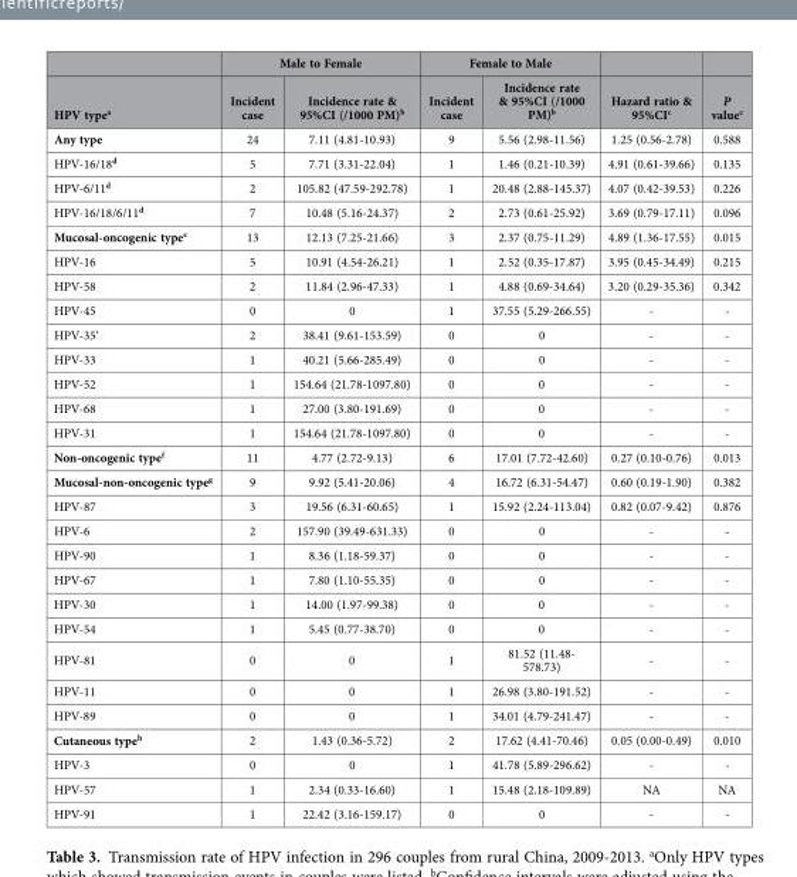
<table><thead><tr><td rowspan="2">HPV type<sup>a</sup></td><td colspan="2">Male to Female</td><td colspan="2">Female to Male</td><td rowspan="2">Hazard ratio &amp; 95%CI<sup>c</sup></td><td rowspan="2">P value<sup>c</sup></td></tr><tr><td>Incident case</td><td>Incidence rate &amp; 95%CI (/1000 PM)<sup>b</sup></td><td>Incident case</td><td>Incidence rate &amp; 95%CI (/1000 PM)<sup>b</sup></td></tr></thead><tbody><tr><td>Any type</td><td>24</td><td>7.11 (4.81-10.93)</td><td>9</td><td>5.56 (2.98-11.56)</td><td>1.25 (0.56-2.78)</td><td>0.588</td></tr><tr><td>HPV-16/18<sup>d</sup></td><td>5</td><td>7.71 (3.31-22.04)</td><td>1</td><td>1.46 (0.21-10.39)</td><td>4.91 (0.61-39.66)</td><td>0.135</td></tr><tr><td>HPV-6/11<sup>d</sup></td><td>2</td><td>105.82 (47.59-292.78)</td><td>1</td><td>20.48 (2.88-145.37)</td><td>4.07 (0.42-39.53)</td><td>0.226</td></tr><tr><td>HPV-16/18/6/11<sup>d</sup></td><td>7</td><td>10.48 (5.16-24.37)</td><td>2</td><td>2.73 (0.61-25.92)</td><td>3.69 (0.79-17.11)</td><td>0.096</td></tr><tr><td>Mucosal-oncogenic type<sup>e</sup></td><td>13</td><td>12.13 (7.25-21.66)</td><td>3</td><td>2.37 (0.75-11.29)</td><td>4.89 (1.36-17.55)</td><td>0.015</td></tr><tr><td>HPV-16</td><td>5</td><td>10.91 (4.54-26.21)</td><td>1</td><td>2.52 (0.35-17.87)</td><td>3.95 (0.45-34.49)</td><td>0.215</td></tr><tr><td>HPV-58</td><td>2</td><td>11.84 (2.96-47.33)</td><td>1</td><td>4.88 (0.69-34.64)</td><td>3.20 (0.29-35.36)</td><td>0.342</td></tr><tr><td>HPV-45</td><td>0</td><td>0</td><td>1</td><td>37.55 (5.29-266.55)</td><td>-</td><td>-</td></tr><tr><td>HPV-35‘</td><td>2</td><td>38.41 (9.61-153.59)</td><td>0</td><td>0</td><td>-</td><td>-</td></tr><tr><td>HPV-33</td><td>1</td><td>40.21 (5.66-285.49)</td><td>0</td><td>0</td><td>-</td><td>-</td></tr><tr><td>HPV-52</td><td>1</td><td>154.64 (21.78-1097.80)</td><td>0</td><td>0</td><td>-</td><td>-</td></tr><tr><td>HPV-68</td><td>1</td><td>27.00 (3.80-191.69)</td><td>0</td><td>0</td><td>-</td><td>-</td></tr><tr><td>HPV-31</td><td>1</td><td>154.64 (21.78-1097.80)</td><td>0</td><td>0</td><td>-</td><td>-</td></tr><tr><td>Non-oncogenic type<sup>f</sup></td><td>11</td><td>4.77 (2.72-9.13)</td><td>6</td><td>17.01 (7.72-42.60)</td><td>0.27 (0.10-0.76)</td><td>0.013</td></tr><tr><td>Mucosal-non-oncogenic type<sup>g</sup></td><td>9</td><td>9.92 (5.41-20.06)</td><td>4</td><td>16.72 (6.31-54.47)</td><td>0.60 (0.19-1.90)</td><td>0.382</td></tr><tr><td>HPV-87</td><td>3</td><td>19.56 (6.31-60.65)</td><td>1</td><td>15.92 (2.24-113.04)</td><td>0.82 (0.07-9.42)</td><td>0.876</td></tr><tr><td>HPV-6</td><td>2</td><td>157.90 (39.49-631.33)</td><td>0</td><td>0</td><td>-</td><td>-</td></tr><tr><td>HPV-90</td><td>1</td><td>8.36 (1.18-59.37)</td><td>0</td><td>0</td><td>-</td><td>-</td></tr><tr><td>HPV-67</td><td>1</td><td>7.80 (1.10-55.35)</td><td>0</td><td>0</td><td>-</td><td>-</td></tr><tr><td>HPV-30</td><td>1</td><td>14.00 (1.97-99.38)</td><td>0</td><td>0</td><td>-</td><td>-</td></tr><tr><td>HPV-54</td><td>1</td><td>5.45 (0.77-38.70)</td><td>0</td><td>0</td><td>-</td><td>-</td></tr><tr><td>HPV-81</td><td>0</td><td>0</td><td>1</td><td>81.52 (11.48- 578.73)</td><td>-</td><td>-</td></tr><tr><td>HPV-11</td><td>0</td><td>0</td><td>1</td><td>26.98 (3.80-191.52)</td><td>-</td><td>-</td></tr><tr><td>HPV-89</td><td>0</td><td>0</td><td>1</td><td>34.01 (4.79-241.47)</td><td>-</td><td>-</td></tr><tr><td>Cutaneous type<sup>h</sup></td><td>2</td><td>1.43 (0.36-5.72)</td><td>2</td><td>17.62 (4.41-70.46)</td><td>0.05 (0.00-0.49)</td><td>0.010</td></tr><tr><td>HPV-3</td><td>0</td><td>0</td><td>1</td><td>41.78 (5.89-296.62)</td><td>-</td><td>-</td></tr><tr><td>HPV-57</td><td>1</td><td>2.34 (0.33-16.60)</td><td>1</td><td>15.48 (2.18-109.89)</td><td>NA</td><td>NA</td></tr><tr><td>HPV-91</td><td>1</td><td>22.42 (3.16-159.17)</td><td>0</td><td>0</td><td>-</td><td>-</td></tr></tbody></table>